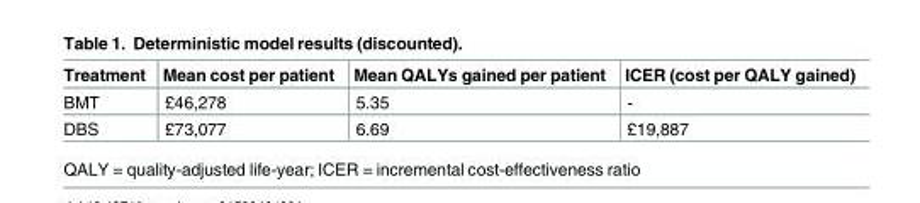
<table><thead><tr><td>Treatment</td><td>Mean cost per patient</td><td>Mean QALYs gained per patient</td><td>ICER (cost per QALY gained)</td></tr></thead><tbody><tr><td>BMT</td><td>£46,278</td><td>5.35</td><td>-</td></tr><tr><td>DBS</td><td>£73,077</td><td>6.69</td><td>£19,887</td></tr></tbody></table>